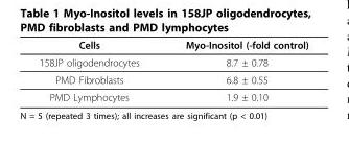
<table><thead><tr><td>Cells</td><td>Myo-Inositol (-fold control)</td></tr></thead><tbody><tr><td>158JP oligodendrocytes</td><td>8.7 ± 0.78</td></tr><tr><td>PMD Fibroblasts</td><td>6.8 ± 0.55</td></tr><tr><td>PMD Lymphocytes</td><td>1.9 ± 0.10</td></tr></tbody></table>